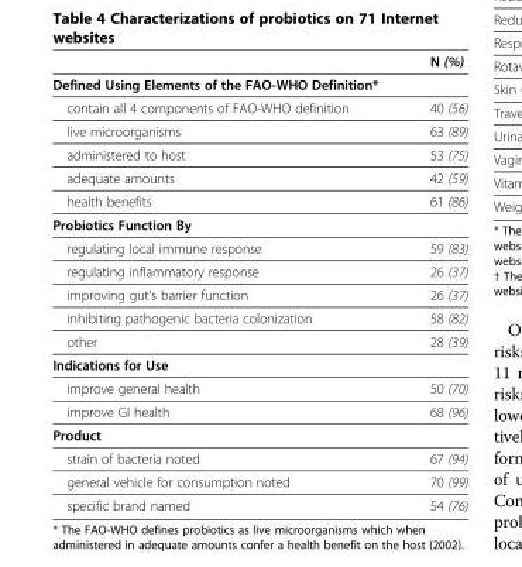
<table><thead><tr><td></td><td>N (%)</td></tr></thead><tbody><tr><td colspan="2">Defined Using Elements of the FAO-WHO Definition*</td></tr><tr><td>contain all 4 components of FAO-WHO definition</td><td>40 (56)</td></tr><tr><td>live microorganisms</td><td>63 (89)</td></tr><tr><td>administered to host</td><td>53 (75)</td></tr><tr><td>adequate amounts</td><td>42 (59)</td></tr><tr><td>health benefits</td><td>61 (86)</td></tr><tr><td colspan="2">Probiotics Function By</td></tr><tr><td>regulating local immune response</td><td>59 (83)</td></tr><tr><td>regulating inflammatory response</td><td>26 (37)</td></tr><tr><td>improving gut’s barrier function</td><td>26 (37)</td></tr><tr><td>inhibiting pathogenic bacteria colonization</td><td>58 (82)</td></tr><tr><td>other</td><td>28 (39)</td></tr><tr><td colspan="2">Indications for Use</td></tr><tr><td>improve general health</td><td>50 (70)</td></tr><tr><td>improve GI health</td><td>68 (96)</td></tr><tr><td colspan="2">Product</td></tr><tr><td>strain of bacteria noted</td><td>67 (94)</td></tr><tr><td>general vehicle for consumption noted</td><td>70 (99)</td></tr><tr><td>specific brand named</td><td>54 (76)</td></tr></tbody></table>